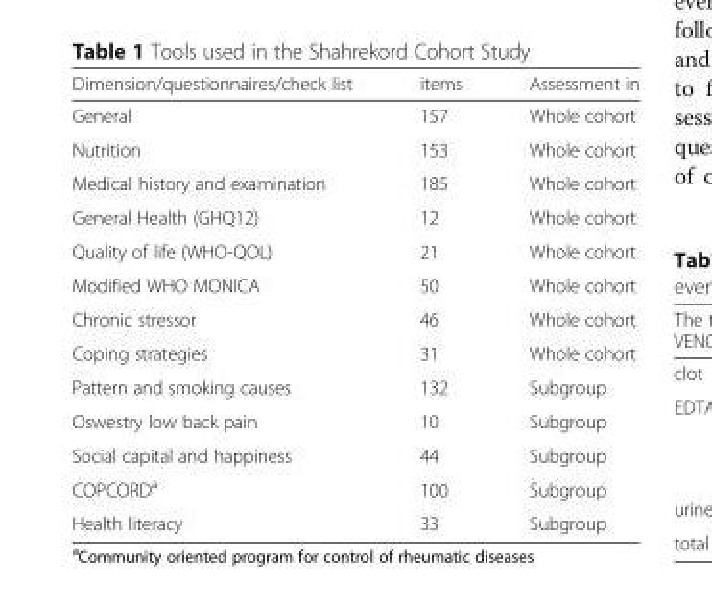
<table><thead><tr><td>Dimension/questionnaires/check list</td><td>items</td><td>Assessment in</td></tr></thead><tbody><tr><td>General</td><td>157</td><td>Whole cohort</td></tr><tr><td>Nutrition</td><td>153</td><td>Whole cohort</td></tr><tr><td>Medical history and examination</td><td>185</td><td>Whole cohort</td></tr><tr><td>General Health (GHQ12)</td><td>12</td><td>Whole cohort</td></tr><tr><td>Quality of life (WHO-QOL)</td><td>21</td><td>Whole cohort</td></tr><tr><td>Modified WHO MONICA</td><td>50</td><td>Whole cohort</td></tr><tr><td>Chronic stressor</td><td>46</td><td>Whole cohort</td></tr><tr><td>Coping strategies</td><td>31</td><td>Whole cohort</td></tr><tr><td>Pattern and smoking causes</td><td>132</td><td>Subgroup</td></tr><tr><td>Oswestry low back pain</td><td>10</td><td>Subgroup</td></tr><tr><td>Social capital and happiness</td><td>44</td><td>Subgroup</td></tr><tr><td>COPCORD<sup>a</sup></td><td>100</td><td>Subgroup</td></tr><tr><td>Health literacy</td><td>33</td><td>Subgroup</td></tr></tbody></table>